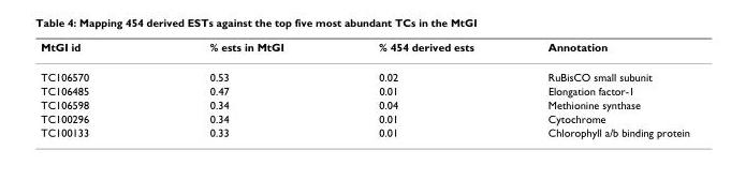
<table><thead><tr><td>MtGI id</td><td>% ests in MtGI</td><td>% 454 derived ests</td><td>Annotation</td></tr></thead><tbody><tr><td>TC106570</td><td>0.53</td><td>0.02</td><td>RuBisCO small subunit</td></tr><tr><td>TC106485</td><td>0.47</td><td>0.01</td><td>Elongation factor-1</td></tr><tr><td>TC106598</td><td>0.34</td><td>0.04</td><td>Methionine synthase</td></tr><tr><td>TC100296</td><td>0.34</td><td>0.01</td><td>Cytochrome</td></tr><tr><td>TC100133</td><td>0.33</td><td>0.01</td><td>Chlorophyll a/b binding protein</td></tr></tbody></table>